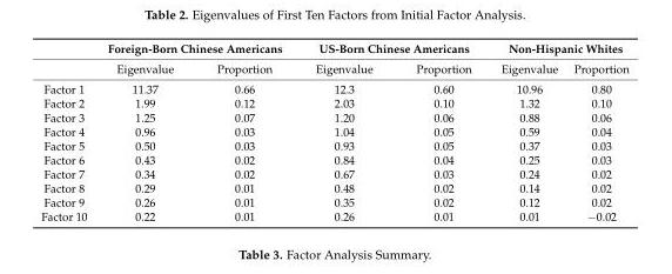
<table><thead><tr><td rowspan="2"></td><td colspan="2">Foreign-Born Chinese Americans</td><td colspan="2">US-Born Chinese Americans</td><td colspan="2">Non-Hispanic Whites</td></tr><tr><td>Eigenvalue</td><td>Proportion</td><td>Eigenvalue</td><td>Proportion</td><td>Eigenvalue</td><td>Proportion</td></tr></thead><tbody><tr><td>Factor 1</td><td>11.37</td><td>0.66</td><td>12.3</td><td>0.60</td><td>10.96</td><td>0.80</td></tr><tr><td>Factor 2</td><td>1.99</td><td>0.12</td><td>2.03</td><td>0.10</td><td>1.32</td><td>0.10</td></tr><tr><td>Factor 3</td><td>1.25</td><td>0.07</td><td>1.20</td><td>0.06</td><td>0.88</td><td>0.06</td></tr><tr><td>Factor 4</td><td>0.96</td><td>0.03</td><td>1.04</td><td>0.05</td><td>0.59</td><td>0.04</td></tr><tr><td>Factor 5</td><td>0.50</td><td>0.03</td><td>0.93</td><td>0.05</td><td>0.37</td><td>0.03</td></tr><tr><td>Factor 6</td><td>0.43</td><td>0.02</td><td>0.84</td><td>0.04</td><td>0.25</td><td>0.03</td></tr><tr><td>Factor 7</td><td>0.34</td><td>0.02</td><td>0.67</td><td>0.03</td><td>0.24</td><td>0.02</td></tr><tr><td>Factor 8</td><td>0.29</td><td>0.01</td><td>0.48</td><td>0.02</td><td>0.14</td><td>0.02</td></tr><tr><td>Factor 9</td><td>0.26</td><td>0.01</td><td>0.35</td><td>0.02</td><td>0.12</td><td>0.02</td></tr><tr><td>Factor 10</td><td>0.22</td><td>0.01</td><td>0.26</td><td>0.01</td><td>0.01</td><td>−0.02</td></tr></tbody></table>